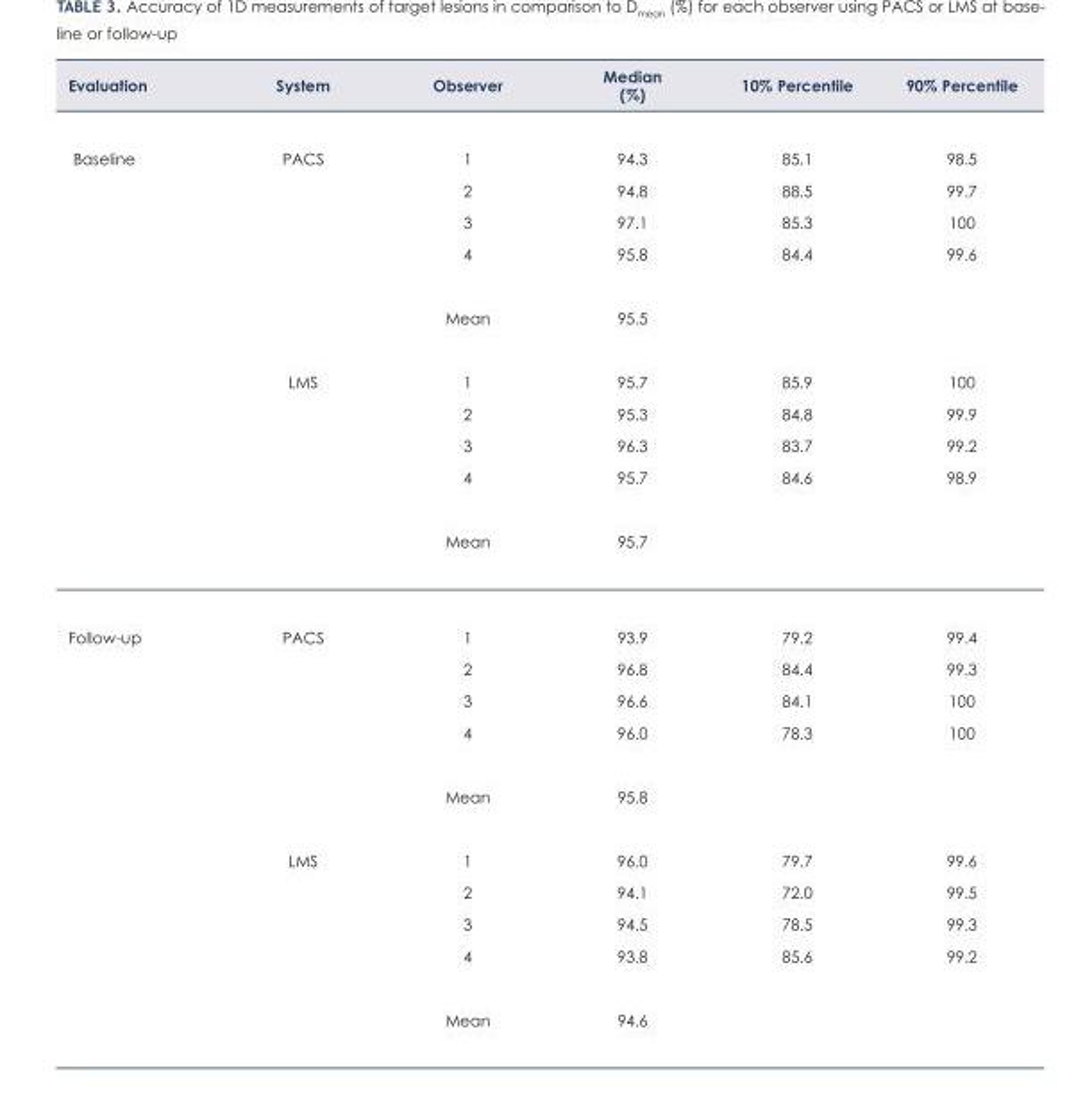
<table><thead><tr><td>Evaluation</td><td>System</td><td>Observer</td><td>Median (%)</td><td>10% Percentile</td><td>90% Percentile</td></tr></thead><tbody><tr><td rowspan="10">Baseline</td><td>PACS</td><td>1</td><td>94.3</td><td>85.1</td><td>98.5</td></tr><tr><td></td><td>2</td><td>94.8</td><td>88.5</td><td>99.7</td></tr><tr><td></td><td>3</td><td>97.1</td><td>85.3</td><td>100</td></tr><tr><td></td><td>4</td><td>95.8</td><td>84.4</td><td>99.6</td></tr><tr><td></td><td>Mean</td><td>95.5</td><td></td><td></td></tr><tr><td>LMS</td><td>1</td><td>95.7</td><td>85.9</td><td>100</td></tr><tr><td></td><td>2</td><td>95.3</td><td>84.8</td><td>99.9</td></tr><tr><td></td><td>3</td><td>96.3</td><td>83.7</td><td>99.2</td></tr><tr><td></td><td>4</td><td>95.7</td><td>84.6</td><td>98.9</td></tr><tr><td></td><td>Mean</td><td>95.7</td><td></td><td></td></tr><tr><td rowspan="10">Follow-up</td><td>PACS</td><td>1</td><td>93.9</td><td>79.2</td><td>99.4</td></tr><tr><td></td><td>2</td><td>96.8</td><td>84.4</td><td>99.3</td></tr><tr><td></td><td>3</td><td>96.6</td><td>84.1</td><td>100</td></tr><tr><td></td><td>4</td><td>96.0</td><td>78.3</td><td>100</td></tr><tr><td></td><td>Mean</td><td>95.8</td><td></td><td></td></tr><tr><td>LMS</td><td>1</td><td>96.0</td><td>79.7</td><td>99.6</td></tr><tr><td></td><td>2</td><td>94.1</td><td>72.0</td><td>99.5</td></tr><tr><td></td><td>3</td><td>94.5</td><td>78.5</td><td>99.3</td></tr><tr><td></td><td>4</td><td>93.8</td><td>85.6</td><td>99.2</td></tr><tr><td></td><td>Mean</td><td>94.6</td><td></td><td></td></tr></tbody></table>